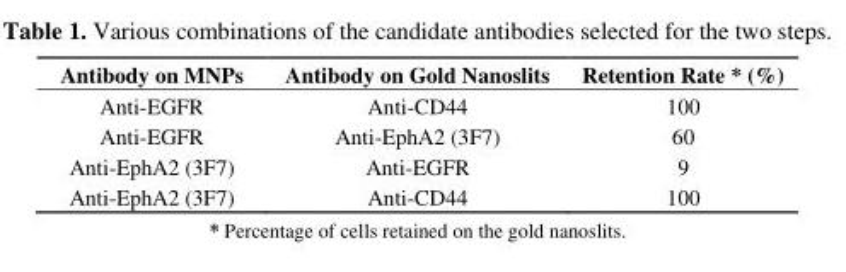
<table><thead><tr><td>Antibody on MNPs</td><td>Antibody on Gold Nanoslits</td><td>Retention Rate * (%)</td></tr></thead><tbody><tr><td>Anti-EGFR</td><td>Anti-CD44</td><td>100</td></tr><tr><td>Anti-EGFR</td><td>Anti-EphA2 (3F7)</td><td>60</td></tr><tr><td>Anti-EphA2 (3F7)</td><td>Anti-EGFR</td><td>9</td></tr><tr><td>Anti-EphA2 (3F7)</td><td>Anti-CD44</td><td>100</td></tr></tbody></table>